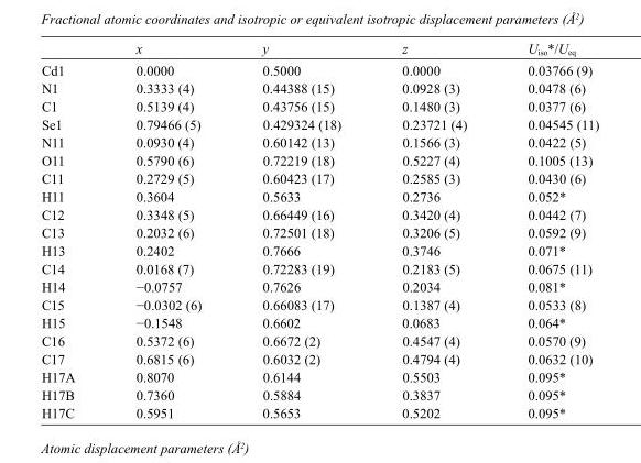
<table><thead><tr><td></td><td>x</td><td>y</td><td>z</td><td>U<sub>iso</sub>*/U<sub>eq</sub></td></tr></thead><tbody><tr><td>Cd1</td><td>0.0000</td><td>0.5000</td><td>0.0000</td><td>0.03766 (9)</td></tr><tr><td>N1</td><td>0.3333 (4)</td><td>0.44388 (15)</td><td>0.0928 (3)</td><td>0.0478 (6)</td></tr><tr><td>C1</td><td>0.5139 (4)</td><td>0.43756 (15)</td><td>0.1480 (3)</td><td>0.0377 (6)</td></tr><tr><td>Se1</td><td>0.79466 (5)</td><td>0.429324 (18)</td><td>0.23721 (4)</td><td>0.04545 (11)</td></tr><tr><td>N11</td><td>0.0930 (4)</td><td>0.60142 (13)</td><td>0.1566 (3)</td><td>0.0422 (5)</td></tr><tr><td>O11</td><td>0.5790 (6)</td><td>0.72219 (18)</td><td>0.5227 (4)</td><td>0.1005 (13)</td></tr><tr><td>C11</td><td>0.2729 (5)</td><td>0.60423 (17)</td><td>0.2585 (3)</td><td>0.0430 (6)</td></tr><tr><td>H11</td><td>0.3604</td><td>0.5633</td><td>0.2736</td><td>0.052*</td></tr><tr><td>C12</td><td>0.3348 (5)</td><td>0.66449 (16)</td><td>0.3420 (4)</td><td>0.0442 (7)</td></tr><tr><td>C13</td><td>0.2032 (6)</td><td>0.72501 (18)</td><td>0.3206 (5)</td><td>0.0592 (9)</td></tr><tr><td>H13</td><td>0.2402</td><td>0.7666</td><td>0.3746</td><td>0.071*</td></tr><tr><td>C14</td><td>0.0168 (7)</td><td>0.72283 (19)</td><td>0.2183 (5)</td><td>0.0675 (11)</td></tr><tr><td>H14</td><td>−0.0757</td><td>0.7626</td><td>0.2034</td><td>0.081*</td></tr><tr><td>C15</td><td>−0.0302 (6)</td><td>0.66083 (17)</td><td>0.1387 (4)</td><td>0.0533 (8)</td></tr><tr><td>H15</td><td>−0.1548</td><td>0.6602</td><td>0.0683</td><td>0.064*</td></tr><tr><td>C16</td><td>0.5372 (6)</td><td>0.6672 (2)</td><td>0.4547 (4)</td><td>0.0570 (9)</td></tr><tr><td>C17</td><td>0.6815 (6)</td><td>0.6032 (2)</td><td>0.4794 (4)</td><td>0.0632 (10)</td></tr><tr><td>H17A</td><td>0.8070</td><td>0.6144</td><td>0.5503</td><td>0.095*</td></tr><tr><td>H17B</td><td>0.7360</td><td>0.5884</td><td>0.3837</td><td>0.095*</td></tr><tr><td>H17C</td><td>0.5951</td><td>0.5653</td><td>0.5202</td><td>0.095*</td></tr></tbody></table>